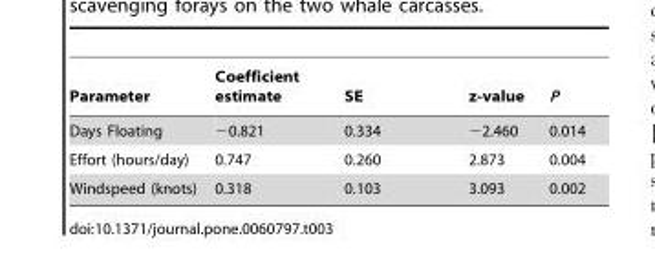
<table><thead><tr><td>Parameter</td><td>Coefficient estimate</td><td>SE</td><td>z-value</td><td>P</td></tr></thead><tbody><tr><td>Days Floating</td><td>−0.821</td><td>0.334</td><td>−2.460</td><td>0.014</td></tr><tr><td>Effort (hours/day)</td><td>0.747</td><td>0.260</td><td>2.873</td><td>0.004</td></tr><tr><td>Windspeed (knots)</td><td>0.318</td><td>0.103</td><td>3.093</td><td>0.002</td></tr></tbody></table>